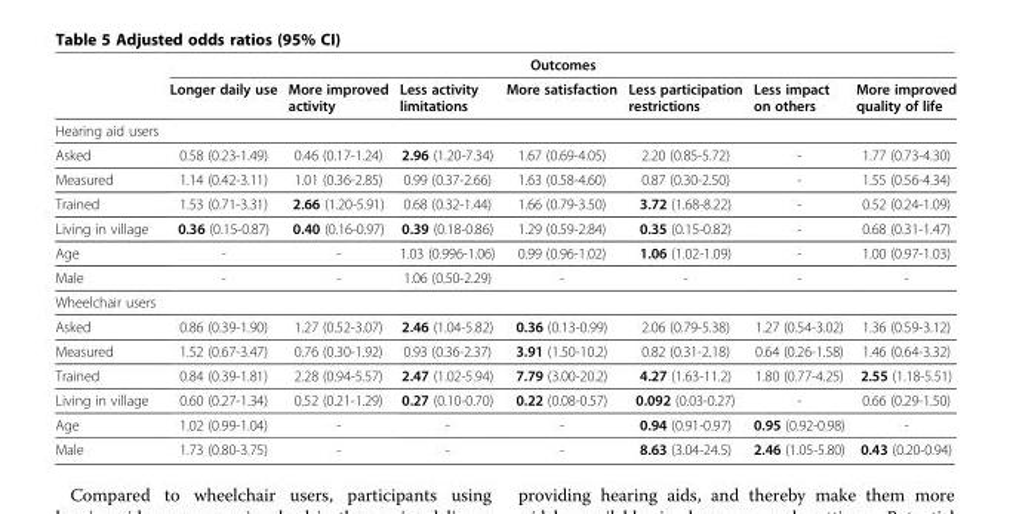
<table><thead><tr><td rowspan="2"></td><td colspan="7">Outcomes</td></tr><tr><td>Longer daily use</td><td>More improved activity</td><td>Less activity limitations</td><td>More satisfaction</td><td>Less participation restrictions</td><td>Less impact on others</td><td>More improved quality of life</td></tr></thead><tbody><tr><td colspan="8">Hearing aid users</td></tr><tr><td>Asked</td><td>0.58 (0.23-1.49)</td><td>0.46 (0.17-1.24)</td><td>2.96 (1.20-7.34)</td><td>1.67 (0.69-4.05)</td><td>2.20 (0.85-5.72)</td><td>-</td><td>1.77 (0.73-4.30)</td></tr><tr><td>Measured</td><td>1.14 (0.42-3.11)</td><td>1.01 (0.36-2.85)</td><td>0.99 (0.37-2.66)</td><td>1.63 (0.58-4.60)</td><td>0.87 (0.30-2.50)</td><td>-</td><td>1.55 (0.56-4.34)</td></tr><tr><td>Trained</td><td>1.53 (0.71-3.31)</td><td>2.66 (1.20-5.91)</td><td>0.68 (0.32-1.44)</td><td>1.66 (0.79-3.50)</td><td>3.72 (1.68-8.22)</td><td>-</td><td>0.52 (0.24-1.09)</td></tr><tr><td>Living in village</td><td>0.36 (0.15-0.87)</td><td>0.40 (0.16-0.97)</td><td>0.39 (0.18-0.86)</td><td>1.29 (0.59-2.84)</td><td>0.35 (0.15-0.82)</td><td>-</td><td>0.68 (0.31-1.47)</td></tr><tr><td>Age</td><td>-</td><td>-</td><td>1.03 (0.996-1.06)</td><td>0.99 (0.96-1.02)</td><td>1.06 (1.02-1.09)</td><td>-</td><td>1.00 (0.97-1.03)</td></tr><tr><td>Male</td><td>-</td><td>-</td><td>1.06 (0.50-2.29)</td><td>-</td><td>-</td><td>-</td><td>-</td></tr><tr><td colspan="8">Wheelchair users</td></tr><tr><td>Asked</td><td>0.86 (0.39-1.90)</td><td>1.27 (0.52-3.07)</td><td>2.46 (1.04-5.82)</td><td>0.36 (0.13-0.99)</td><td>2.06 (0.79-5.38)</td><td>1.27 (0.54-3.02)</td><td>1.36 (0.59-3.12)</td></tr><tr><td>Measured</td><td>1.52 (0.67-3.47)</td><td>0.76 (0.30-1.92)</td><td>0.93 (0.36-2.37)</td><td>3.91 (1.50-10.2)</td><td>0.82 (0.31-2.18)</td><td>0.64 (0.26-1.58)</td><td>1.46 (0.64-3.32)</td></tr><tr><td>Trained</td><td>0.84 (0.39-1.81)</td><td>2.28 (0.94-5.57)</td><td>2.47 (1.02-5.94)</td><td>7.79 (3.00-20.2)</td><td>4.27 (1.63-11.2)</td><td>1.80 (0.77-4.25)</td><td>2.55 (1.18-5.51)</td></tr><tr><td>Living in village</td><td>0.60 (0.27-1.34)</td><td>0.52 (0.21-1.29)</td><td>0.27 (0.10-0.70)</td><td>0.22 (0.08-0.57)</td><td>0.092 (0.03-0.27)</td><td>-</td><td>0.66 (0.29-1.50)</td></tr><tr><td>Age</td><td>1.02 (0.99-1.04)</td><td>-</td><td>-</td><td>-</td><td>0.94 (0.91-0.97)</td><td>0.95 (0.92-0.98)</td><td>-</td></tr><tr><td>Male</td><td>1.73 (0.80-3.75)</td><td>-</td><td>-</td><td>-</td><td>8.63 (3.04-24.5)</td><td>2.46 (1.05-5.80)</td><td>0.43 (0.20-0.94)</td></tr></tbody></table>